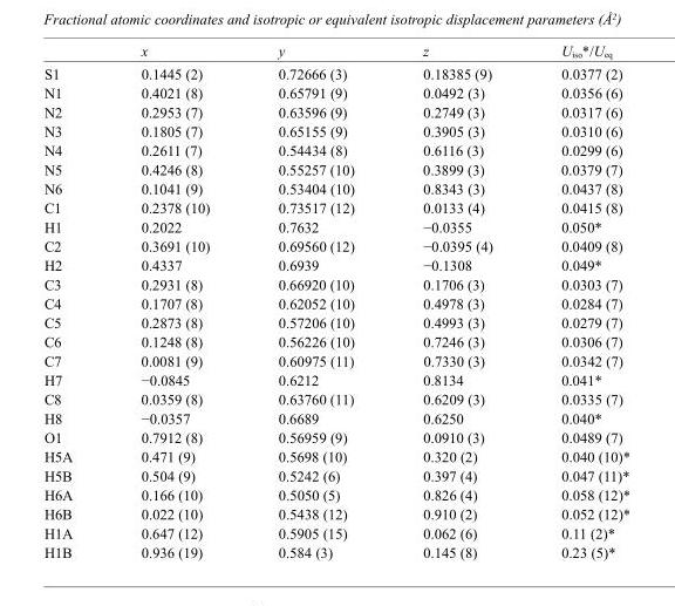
<table><thead><tr><td></td><td>x</td><td>y</td><td>z</td><td>U<sub>iso</sub>*/U<sub>eq</sub></td></tr></thead><tbody><tr><td>S1</td><td>0.1445 (2)</td><td>0.72666 (3)</td><td>0.18385 (9)</td><td>0.0377 (2)</td></tr><tr><td>N1</td><td>0.4021 (8)</td><td>0.65791 (9)</td><td>0.0492 (3)</td><td>0.0356 (6)</td></tr><tr><td>N2</td><td>0.2953 (7)</td><td>0.63596 (9)</td><td>0.2749 (3)</td><td>0.0317 (6)</td></tr><tr><td>N3</td><td>0.1805 (7)</td><td>0.65155 (9)</td><td>0.3905 (3)</td><td>0.0310 (6)</td></tr><tr><td>N4</td><td>0.2611 (7)</td><td>0.54434 (8)</td><td>0.6116 (3)</td><td>0.0299 (6)</td></tr><tr><td>N5</td><td>0.4246 (8)</td><td>0.55257 (10)</td><td>0.3899 (3)</td><td>0.0379 (7)</td></tr><tr><td>N6</td><td>0.1041 (9)</td><td>0.53404 (10)</td><td>0.8343 (3)</td><td>0.0437 (8)</td></tr><tr><td>C1</td><td>0.2378 (10)</td><td>0.73517 (12)</td><td>0.0133 (4)</td><td>0.0415 (8)</td></tr><tr><td>H1</td><td>0.2022</td><td>0.7632</td><td>−0.0355</td><td>0.050*</td></tr><tr><td>C2</td><td>0.3691 (10)</td><td>0.69560 (12)</td><td>−0.0395 (4)</td><td>0.0409 (8)</td></tr><tr><td>H2</td><td>0.4337</td><td>0.6939</td><td>−0.1308</td><td>0.049*</td></tr><tr><td>C3</td><td>0.2931 (8)</td><td>0.66920 (10)</td><td>0.1706 (3)</td><td>0.0303 (7)</td></tr><tr><td>C4</td><td>0.1707 (8)</td><td>0.62052 (10)</td><td>0.4978 (3)</td><td>0.0284 (7)</td></tr><tr><td>C5</td><td>0.2873 (8)</td><td>0.57206 (10)</td><td>0.4993 (3)</td><td>0.0279 (7)</td></tr><tr><td>C6</td><td>0.1248 (8)</td><td>0.56226 (10)</td><td>0.7246 (3)</td><td>0.0306 (7)</td></tr><tr><td>C7</td><td>0.0081 (9)</td><td>0.60975 (11)</td><td>0.7330 (3)</td><td>0.0342 (7)</td></tr><tr><td>H7</td><td>−0.0845</td><td>0.6212</td><td>0.8134</td><td>0.041*</td></tr><tr><td>C8</td><td>0.0359 (8)</td><td>0.63760 (11)</td><td>0.6209 (3)</td><td>0.0335 (7)</td></tr><tr><td>H8</td><td>−0.0357</td><td>0.6689</td><td>0.6250</td><td>0.040*</td></tr><tr><td>O1</td><td>0.7912 (8)</td><td>0.56959 (9)</td><td>0.0910 (3)</td><td>0.0489 (7)</td></tr><tr><td>H5A</td><td>0.471 (9)</td><td>0.5698 (10)</td><td>0.320 (2)</td><td>0.040 (10)*</td></tr><tr><td>H5B</td><td>0.504 (9)</td><td>0.5242 (6)</td><td>0.397 (4)</td><td>0.047 (11)*</td></tr><tr><td>H6A</td><td>0.166 (10)</td><td>0.5050 (5)</td><td>0.826 (4)</td><td>0.058 (12)*</td></tr><tr><td>H6B</td><td>0.022 (10)</td><td>0.5438 (12)</td><td>0.910 (2)</td><td>0.052 (12)*</td></tr><tr><td>H1A</td><td>0.647 (12)</td><td>0.5905 (15)</td><td>0.062 (6)</td><td>0.11 (2)*</td></tr><tr><td>H1B</td><td>0.936 (19)</td><td>0.584 (3)</td><td>0.145 (8)</td><td>0.23 (5)*</td></tr></tbody></table>